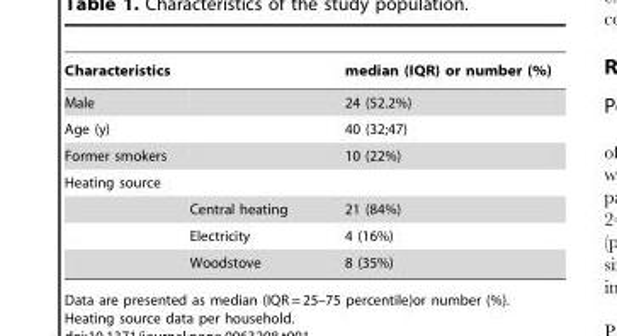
<table><thead><tr><td>Characteristics</td><td></td><td>median (IQR) or number (%)</td></tr></thead><tbody><tr><td>Male</td><td></td><td>24 (52.2%)</td></tr><tr><td>Age (y)</td><td></td><td>40 (32;47)</td></tr><tr><td>Former smokers</td><td></td><td>10 (22%)</td></tr><tr><td colspan="3">Heating source</td></tr><tr><td></td><td>Central heating</td><td>21 (84%)</td></tr><tr><td></td><td>Electricity</td><td>4 (16%)</td></tr><tr><td></td><td>Woodstove</td><td>8 (35%)</td></tr></tbody></table>